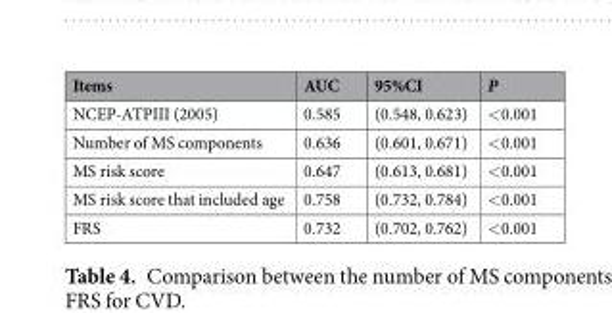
<table><thead><tr><td>Items</td><td>AUC</td><td>95%CI</td><td>P</td></tr></thead><tbody><tr><td>NCEP-ATPIII (2005)</td><td>0.585</td><td>(0.548, 0.623)</td><td>&lt;0.001</td></tr><tr><td>Number of MS components</td><td>0.636</td><td>(0.601, 0.671)</td><td>&lt;0.001</td></tr><tr><td>MS risk score</td><td>0.647</td><td>(0.613, 0.681)</td><td>&lt;0.001</td></tr><tr><td>MS risk score that included age</td><td>0.758</td><td>(0.732, 0.784)</td><td>&lt;0.001</td></tr><tr><td>FRS</td><td>0.732</td><td>(0.702, 0.762)</td><td>&lt;0.001</td></tr></tbody></table>